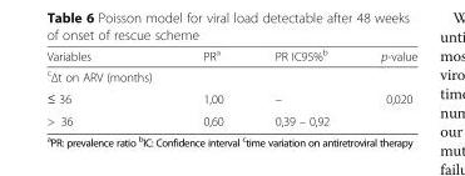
<table><thead><tr><td>Variables</td><td>PR<sup>a</sup></td><td>PR IC95%<sup>b</sup></td><td>p-value</td></tr></thead><tbody><tr><td colspan="4">cΔt on ARV (months)</td></tr><tr><td>≤ 36</td><td>1,00</td><td>–</td><td rowspan="2">0,020</td></tr><tr><td>&gt; 36</td><td>0,60</td><td>0,39 – 0,92</td></tr></tbody></table>